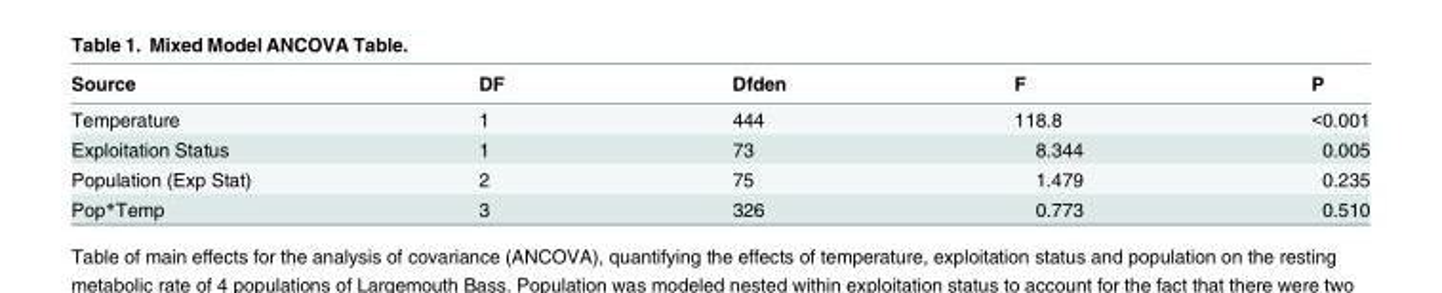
<table><thead><tr><td>Source</td><td>DF</td><td>Dfden</td><td>F</td><td>P</td></tr></thead><tbody><tr><td>Temperature</td><td>1</td><td>444</td><td>118.8</td><td>&lt;0.001</td></tr><tr><td>Exploitation Status</td><td>1</td><td>73</td><td>8.344</td><td>0.005</td></tr><tr><td>Population (Exp Stat)</td><td>2</td><td>75</td><td>1.479</td><td>0.235</td></tr><tr><td>Pop*Temp</td><td>3</td><td>326</td><td>0.773</td><td>0.510</td></tr></tbody></table>